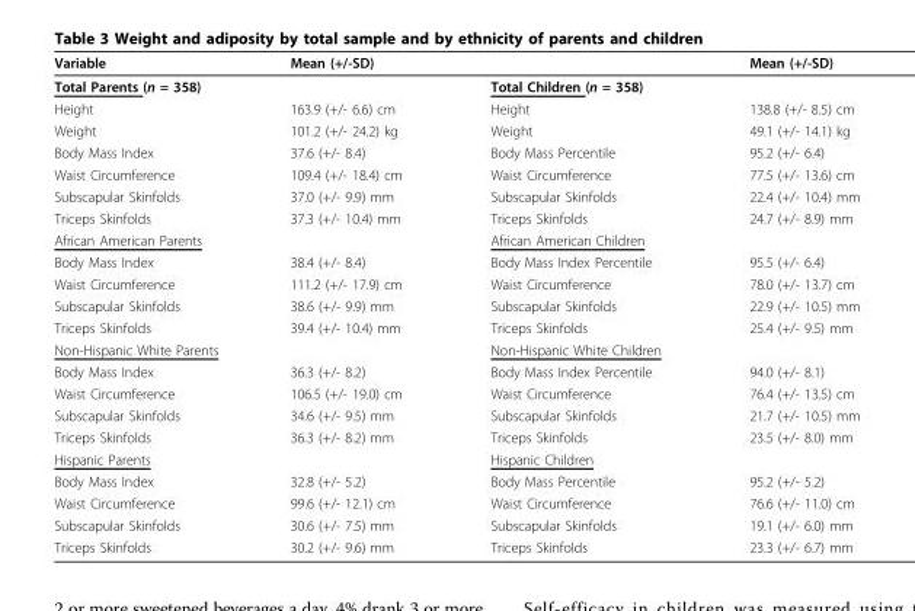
<table><thead><tr><td>Variable</td><td>Mean (+/-SD)</td><td></td><td>Mean (+/-SD)</td></tr></thead><tbody><tr><td>Total Parents (n = 358)</td><td></td><td>Total Children (n = 358)</td><td></td></tr><tr><td>Height</td><td>163.9 (+/- 6.6) cm</td><td>Height</td><td>138.8 (+/- 8.5) cm</td></tr><tr><td>Weight</td><td>101.2 (+/- 24.2) kg</td><td>Weight</td><td>49.1 (+/- 14.1) kg</td></tr><tr><td>Body Mass Index</td><td>37.6 (+/- 8.4)</td><td>Body Mass Percentile</td><td>95.2 (+/- 6.4)</td></tr><tr><td>Waist Circumference</td><td>109.4 (+/- 18.4) cm</td><td>Waist Circumference</td><td>77.5 (+/- 13.6) cm</td></tr><tr><td>Subscapular Skinfolds</td><td>37.0 (+/- 9.9) mm</td><td>Subscapular Skinfolds</td><td>22.4 (+/- 10.4) mm</td></tr><tr><td>Triceps Skinfolds</td><td>37.3 (+/- 10.4) mm</td><td>Triceps Skinfolds</td><td>24.7 (+/- 8.9) mm</td></tr><tr><td>African American Parents</td><td></td><td>African American Children</td><td></td></tr><tr><td>Body Mass Index</td><td>38.4 (+/- 8.4)</td><td>Body Mass Index Percentile</td><td>95.5 (+/- 6.4)</td></tr><tr><td>Waist Circumference</td><td>111.2 (+/- 17.9) cm</td><td>Waist Circumference</td><td>78.0 (+/- 13.7) cm</td></tr><tr><td>Subscapular Skinfolds</td><td>38.6 (+/- 9.9) mm</td><td>Subscapular Skinfolds</td><td>22.9 (+/- 10.5) mm</td></tr><tr><td>Triceps Skinfolds</td><td>39.4 (+/- 10.4) mm</td><td>Triceps Skinfolds</td><td>25.4 (+/- 9.5) mm</td></tr><tr><td colspan="2">Non-Hispanic White Parents</td><td>Non-Hispanic White Children</td><td></td></tr><tr><td>Body Mass Index</td><td>36.3 (+/- 8.2)</td><td>Body Mass Index Percentile</td><td>94.0 (+/- 8.1)</td></tr><tr><td>Waist Circumference</td><td>106.5 (+/- 19.0) cm</td><td>Waist Circumference</td><td>76.4 (+/- 13.5) cm</td></tr><tr><td>Subscapular Skinfolds</td><td>34.6 (+/- 9.5) mm</td><td>Subscapular Skinfolds</td><td>21.7 (+/- 10.5) mm</td></tr><tr><td>Triceps Skinfolds</td><td>36.3 (+/- 8.2) mm</td><td>Triceps Skinfolds</td><td>23.5 (+/- 8.0) mm</td></tr><tr><td>Hispanic Parents</td><td></td><td>Hispanic Children</td><td></td></tr><tr><td>Body Mass Index</td><td>32.8 (+/- 5.2)</td><td>Body Mass Percentile</td><td>95.2 (+/- 5.2)</td></tr><tr><td>Waist Circumference</td><td>99.6 (+/- 12.1) cm</td><td>Waist Circumference</td><td>76.6 (+/- 11.0) cm</td></tr><tr><td>Subscapular Skinfolds</td><td>30.6 (+/- 7.5) mm</td><td>Subscapular Skinfolds</td><td>19.1 (+/- 6.0) mm</td></tr><tr><td>Triceps Skinfolds</td><td>30.2 (+/- 9.6) mm</td><td>Triceps Skinfolds</td><td>23.3 (+/- 6.7) mm</td></tr></tbody></table>